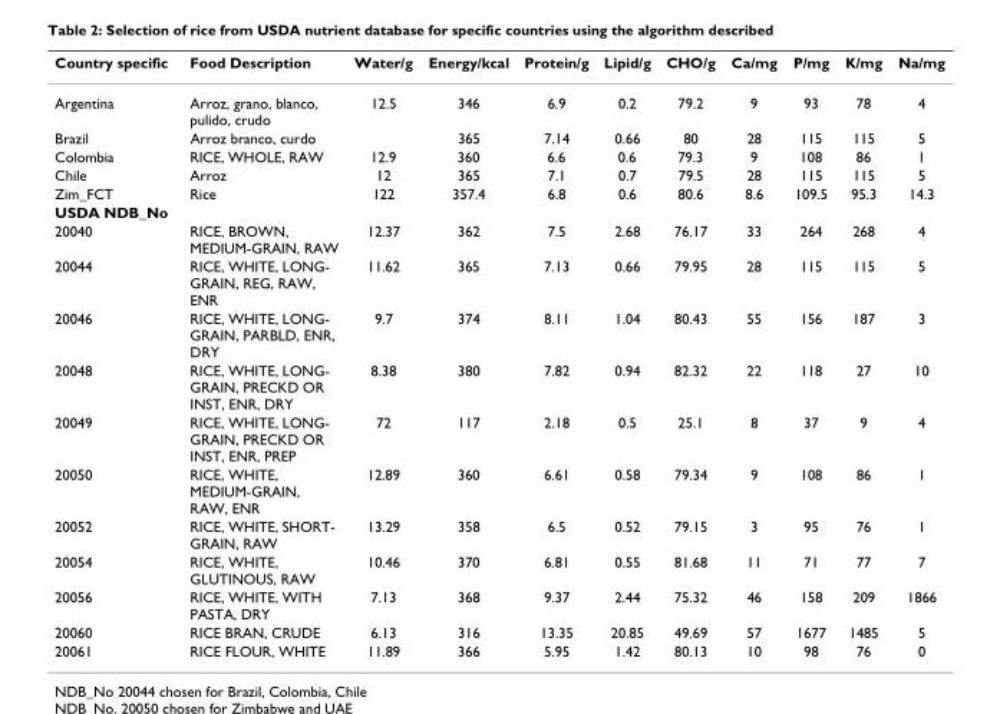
<table><thead><tr><td>Country specific</td><td>Food Description</td><td>Water/g</td><td>Energy/kcal</td><td>Protein/g</td><td>Lipid/g</td><td>CHO/g</td><td>Ca/mg</td><td>P/mg</td><td>K/mg</td><td>Na/mg</td></tr></thead><tbody><tr><td>Argentina</td><td>Arroz, grano, blanco, pulido, crudo</td><td>12.5</td><td>346</td><td>6.9</td><td>0.2</td><td>79.2</td><td>9</td><td>93</td><td>78</td><td>4</td></tr><tr><td>Brazil</td><td>Arroz branco, curdo</td><td></td><td>365</td><td>7.14</td><td>0.66</td><td>80</td><td>28</td><td>115</td><td>115</td><td>5</td></tr><tr><td>Colombia</td><td>RICE, WHOLE, RAW</td><td>12.9</td><td>360</td><td>6.6</td><td>0.6</td><td>79.3</td><td>9</td><td>108</td><td>86</td><td>1</td></tr><tr><td>Chile</td><td>Arroz</td><td>12</td><td>365</td><td>7.1</td><td>0.7</td><td>79.5</td><td>28</td><td>115</td><td>115</td><td>5</td></tr><tr><td>Zim_FCT</td><td>Rice</td><td>122</td><td>357.4</td><td>6.8</td><td>0.6</td><td>80.6</td><td>8.6</td><td>109.5</td><td>95.3</td><td>14.3</td></tr><tr><td colspan="11">USDA NDB_No</td></tr><tr><td>20040</td><td>RICE, BROWN, MEDIUM-GRAIN, RAW</td><td>12.37</td><td>362</td><td>7.5</td><td>2.68</td><td>76.17</td><td>33</td><td>264</td><td>268</td><td>4</td></tr><tr><td>20044</td><td>RICE, WHITE, LONG- GRAIN, REG, RAW, ENR</td><td>11.62</td><td>365</td><td>7.13</td><td>0.66</td><td>79.95</td><td>28</td><td>115</td><td>115</td><td>5</td></tr><tr><td>20046</td><td>RICE, WHITE, LONG- GRAIN, PARBLD, ENR, DRY</td><td>9.7</td><td>374</td><td>8.11</td><td>1.04</td><td>80.43</td><td>55</td><td>156</td><td>187</td><td>3</td></tr><tr><td>20048</td><td>RICE, WHITE, LONG- GRAIN, PRECKD OR INST, ENR, DRY</td><td>8.38</td><td>380</td><td>7.82</td><td>0.94</td><td>82.32</td><td>22</td><td>118</td><td>27</td><td>10</td></tr><tr><td>20049</td><td>RICE, WHITE, LONG- GRAIN, PRECKD OR INST, ENR, PREP</td><td>72</td><td>117</td><td>2.18</td><td>0.5</td><td>25.1</td><td>8</td><td>37</td><td>9</td><td>4</td></tr><tr><td>20050</td><td>RICE, WHITE, MEDIUM-GRAIN, RAW, ENR</td><td>12.89</td><td>360</td><td>6.61</td><td>0.58</td><td>79.34</td><td>9</td><td>108</td><td>86</td><td>1</td></tr><tr><td>20052</td><td>RICE, WHITE, SHORT- GRAIN, RAW</td><td>13.29</td><td>358</td><td>6.5</td><td>0.52</td><td>79.15</td><td>3</td><td>95</td><td>76</td><td>1</td></tr><tr><td>20054</td><td>RICE, WHITE, GLUTINOUS, RAW</td><td>10.46</td><td>370</td><td>6.81</td><td>0.55</td><td>81.68</td><td>11</td><td>71</td><td>77</td><td>7</td></tr><tr><td>20056</td><td>RICE, WHITE, WITH PASTA, DRY</td><td>7.13</td><td>368</td><td>9.37</td><td>2.44</td><td>75.32</td><td>46</td><td>158</td><td>209</td><td>1866</td></tr><tr><td>20060</td><td>RICE BRAN, CRUDE</td><td>6.13</td><td>316</td><td>13.35</td><td>20.85</td><td>49.69</td><td>57</td><td>1677</td><td>1485</td><td>5</td></tr><tr><td>20061</td><td>RICE FLOUR, WHITE</td><td>11.89</td><td>366</td><td>5.95</td><td>1.42</td><td>80.13</td><td>10</td><td>98</td><td>76</td><td>0</td></tr></tbody></table>